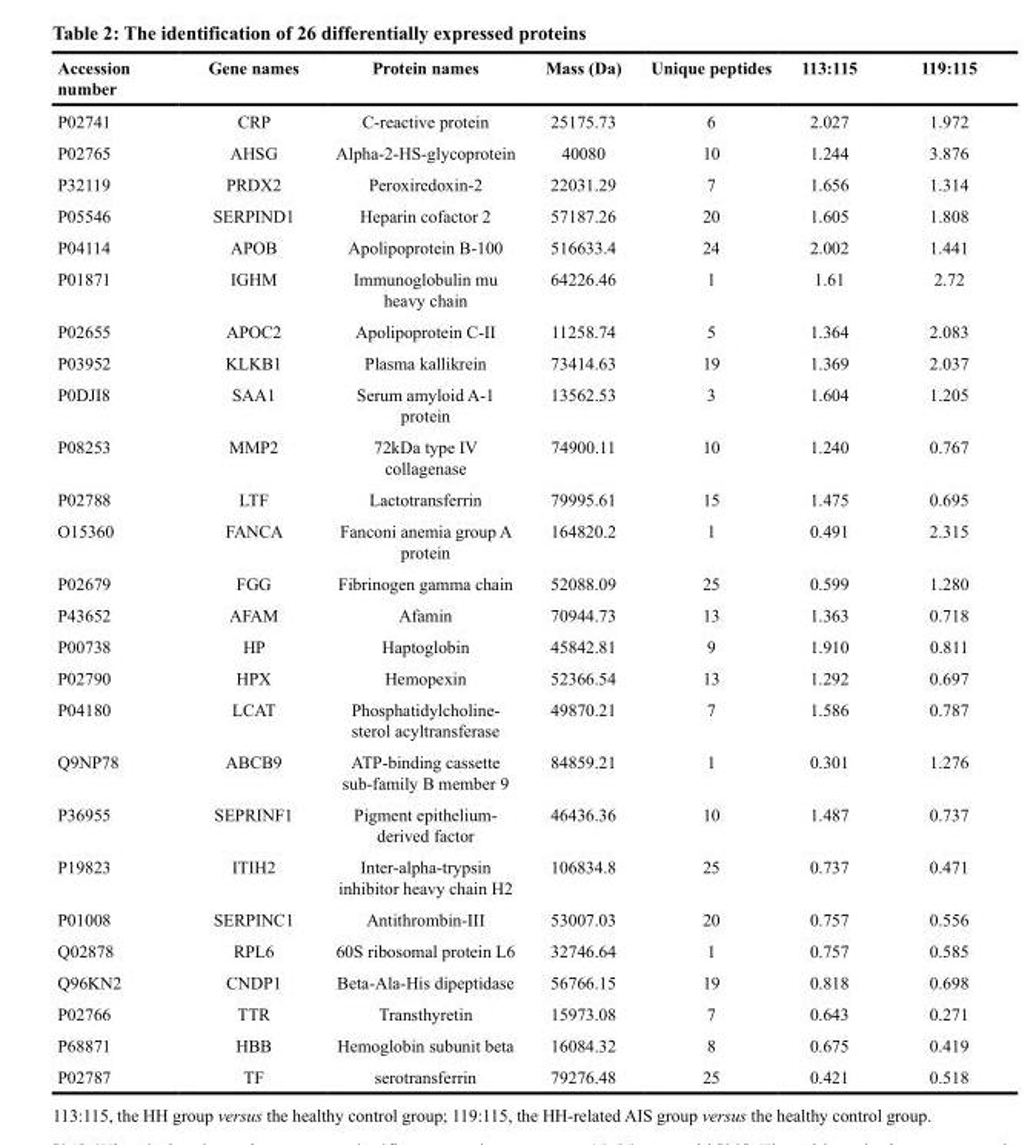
<table><thead><tr><td>Accession number</td><td>Gene names</td><td>Protein names</td><td>Mass (Da)</td><td>Unique peptides</td><td>113:115</td><td>119:115</td></tr></thead><tbody><tr><td>P02741</td><td>CRP</td><td>C-reactive protein</td><td>25175.73</td><td>6</td><td>2.027</td><td>1.972</td></tr><tr><td>P02765</td><td>AHSG</td><td>Alpha-2-HS-glycoprotein</td><td>40080</td><td>10</td><td>1.244</td><td>3.876</td></tr><tr><td>P32119</td><td>PRDX2</td><td>Peroxiredoxin-2</td><td>22031.29</td><td>7</td><td>1.656</td><td>1.314</td></tr><tr><td>P05546</td><td>SERPIND1</td><td>Heparin cofactor 2</td><td>57187.26</td><td>20</td><td>1.605</td><td>1.808</td></tr><tr><td>P04114</td><td>APOB</td><td>Apolipoprotein B-100</td><td>516633.4</td><td>24</td><td>2.002</td><td>1.441</td></tr><tr><td>P01871</td><td>IGHM</td><td>Immunoglobulin mu heavy chain</td><td>64226.46</td><td>1</td><td>1.61</td><td>2.72</td></tr><tr><td>P02655</td><td>APOC2</td><td>Apolipoprotein C-II</td><td>11258.74</td><td>5</td><td>1.364</td><td>2.083</td></tr><tr><td>P03952</td><td>KLKB1</td><td>Plasma kallikrein</td><td>73414.63</td><td>19</td><td>1.369</td><td>2.037</td></tr><tr><td>P0DJI8</td><td>SAA1</td><td>Serum amyloid A-1 protein</td><td>13562.53</td><td>3</td><td>1.604</td><td>1.205</td></tr><tr><td>P08253</td><td>MMP2</td><td>72kDa type IV collagenase</td><td>74900.11</td><td>10</td><td>1.240</td><td>0.767</td></tr><tr><td>P02788</td><td>LTF</td><td>Lactotransferrin</td><td>79995.61</td><td>15</td><td>1.475</td><td>0.695</td></tr><tr><td>O15360</td><td>FANCA</td><td>Fanconi anemia group A protein</td><td>164820.2</td><td>1</td><td>0.491</td><td>2.315</td></tr><tr><td>P02679</td><td>FGG</td><td>Fibrinogen gamma chain</td><td>52088.09</td><td>25</td><td>0.599</td><td>1.280</td></tr><tr><td>P43652</td><td>AFAM</td><td>Afamin</td><td>70944.73</td><td>13</td><td>1.363</td><td>0.718</td></tr><tr><td>P00738</td><td>HP</td><td>Haptoglobin</td><td>45842.81</td><td>9</td><td>1.910</td><td>0.811</td></tr><tr><td>P02790</td><td>HPX</td><td>Hemopexin</td><td>52366.54</td><td>13</td><td>1.292</td><td>0.697</td></tr><tr><td>P04180</td><td>LCAT</td><td>Phosphatidylcholine- sterol acyltransferase</td><td>49870.21</td><td>7</td><td>1.586</td><td>0.787</td></tr><tr><td>Q9NP78</td><td>ABCB9</td><td>ATP-binding cassette sub-family B member 9</td><td>84859.21</td><td>1</td><td>0.301</td><td>1.276</td></tr><tr><td>P36955</td><td>SEPRINF1</td><td>Pigment epithelium- derived factor</td><td>46436.36</td><td>10</td><td>1.487</td><td>0.737</td></tr><tr><td>P19823</td><td>ITIH2</td><td>Inter-alpha-trypsin inhibitor heavy chain H2</td><td>106834.8</td><td>25</td><td>0.737</td><td>0.471</td></tr><tr><td>P01008</td><td>SERPINC1</td><td>Antithrombin-III</td><td>53007.03</td><td>20</td><td>0.757</td><td>0.556</td></tr><tr><td>Q02878</td><td>RPL6</td><td>60S ribosomal protein L6</td><td>32746.64</td><td>1</td><td>0.757</td><td>0.585</td></tr><tr><td>Q96KN2</td><td>CNDP1</td><td>Beta-Ala-His dipeptidase</td><td>56766.15</td><td>19</td><td>0.818</td><td>0.698</td></tr><tr><td>P02766</td><td>TTR</td><td>Transthyretin</td><td>15973.08</td><td>7</td><td>0.643</td><td>0.271</td></tr><tr><td>P68871</td><td>HBB</td><td>Hemoglobin subunit beta</td><td>16084.32</td><td>8</td><td>0.675</td><td>0.419</td></tr><tr><td>P02787</td><td>TF</td><td>serotransferrin</td><td>79276.48</td><td>25</td><td>0.421</td><td>0.518</td></tr></tbody></table>